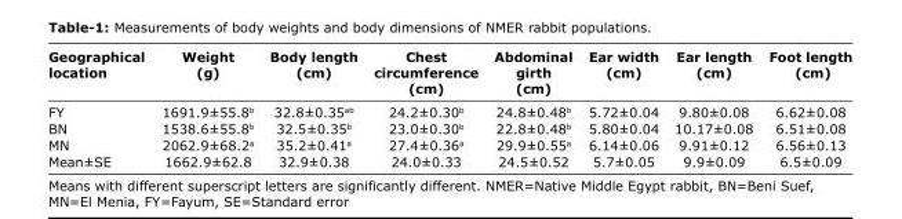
<table><thead><tr><td>Geographical location</td><td>Weight (g)</td><td>Body length (cm)</td><td>Chest circumference (cm)</td><td>Abdominal girth (cm)</td><td>Ear width (cm)</td><td>Ear length (cm)</td><td>Foot length (cm)</td></tr></thead><tbody><tr><td>FY</td><td>1691.9±55.8<sup>b</sup></td><td>32.8±0.35<sup>ab</sup></td><td>24.2±0.30<sup>b</sup></td><td>24.8±0.48<sup>b</sup></td><td>5.72±0.04</td><td>9.80±0.08</td><td>6.62±0.08</td></tr><tr><td>BN</td><td>1538.6±55.8<sup>b</sup></td><td>32.5±0.35<sup>b</sup></td><td>23.0±0.30<sup>b</sup></td><td>22.8±0.48<sup>b</sup></td><td>5.80±0.04</td><td>10.17±0.08</td><td>6.51±0.08</td></tr><tr><td>MN</td><td>2062.9±68.2<sup>a</sup></td><td>35.2±0.41<sup>a</sup></td><td>27.4±0.36<sup>a</sup></td><td>29.9±0.55<sup>a</sup></td><td>6.14±0.06</td><td>9.91±0.12</td><td>6.56±0.13</td></tr><tr><td>Mean±SE</td><td>1662.9±62.8</td><td>32.9±0.38</td><td>24.0±0.33</td><td>24.5±0.52</td><td>5.7±0.05</td><td>9.9±0.09</td><td>6.5±0.09</td></tr></tbody></table>